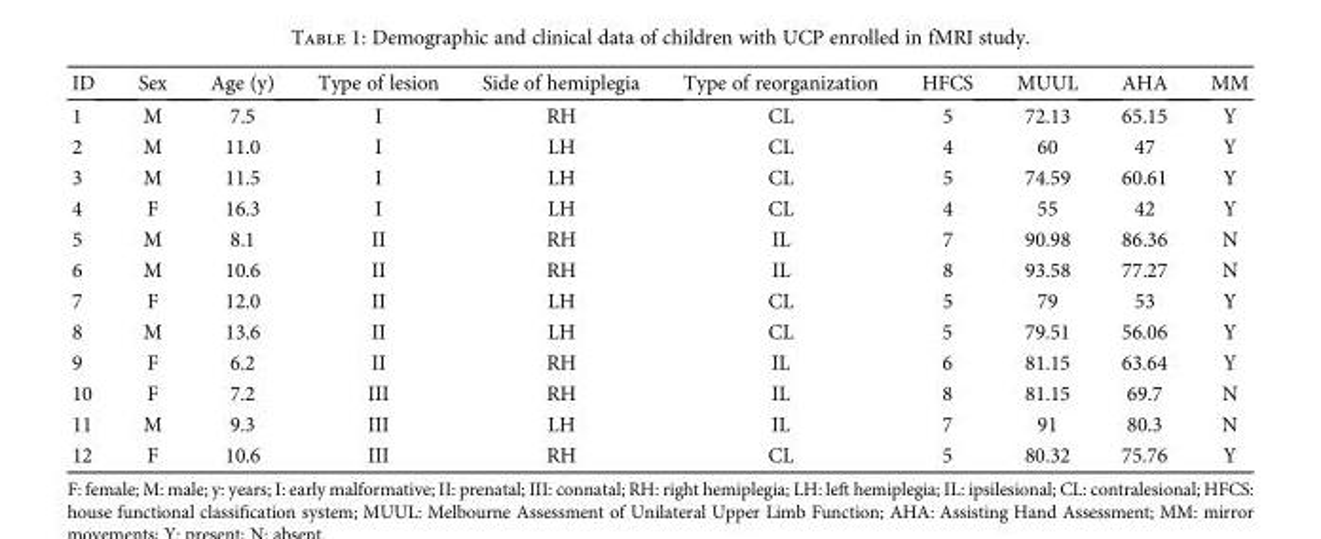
<table><thead><tr><td>ID</td><td>Sex</td><td>Age (y)</td><td>Type of lesion</td><td>Side of hemiplegia</td><td>Type of reorganization</td><td>HFCS</td><td>MUUL</td><td>AHA</td><td>MM</td></tr></thead><tbody><tr><td>1</td><td>M</td><td>7.5</td><td>I</td><td>RH</td><td>CL</td><td>5</td><td>72.13</td><td>65.15</td><td>Y</td></tr><tr><td>2</td><td>M</td><td>11.0</td><td>I</td><td>LH</td><td>CL</td><td>4</td><td>60</td><td>47</td><td>Y</td></tr><tr><td>3</td><td>M</td><td>11.5</td><td>I</td><td>LH</td><td>CL</td><td>5</td><td>74.59</td><td>60.61</td><td>Y</td></tr><tr><td>4</td><td>F</td><td>16.3</td><td>I</td><td>LH</td><td>CL</td><td>4</td><td>55</td><td>42</td><td>Y</td></tr><tr><td>5</td><td>M</td><td>8.1</td><td>II</td><td>RH</td><td>IL</td><td>7</td><td>90.98</td><td>86.36</td><td>N</td></tr><tr><td>6</td><td>M</td><td>10.6</td><td>II</td><td>RH</td><td>IL</td><td>8</td><td>93.58</td><td>77.27</td><td>N</td></tr><tr><td>7</td><td>F</td><td>12.0</td><td>II</td><td>LH</td><td>CL</td><td>5</td><td>79</td><td>53</td><td>Y</td></tr><tr><td>8</td><td>M</td><td>13.6</td><td>II</td><td>LH</td><td>CL</td><td>5</td><td>79.51</td><td>56.06</td><td>Y</td></tr><tr><td>9</td><td>F</td><td>6.2</td><td>II</td><td>RH</td><td>IL</td><td>6</td><td>81.15</td><td>63.64</td><td>Y</td></tr><tr><td>10</td><td>F</td><td>7.2</td><td>III</td><td>RH</td><td>IL</td><td>8</td><td>81.15</td><td>69.7</td><td>N</td></tr><tr><td>11</td><td>M</td><td>9.3</td><td>III</td><td>LH</td><td>IL</td><td>7</td><td>91</td><td>80.3</td><td>N</td></tr><tr><td>12</td><td>F</td><td>10.6</td><td>III</td><td>RH</td><td>CL</td><td>5</td><td>80.32</td><td>75.76</td><td>Y</td></tr></tbody></table>